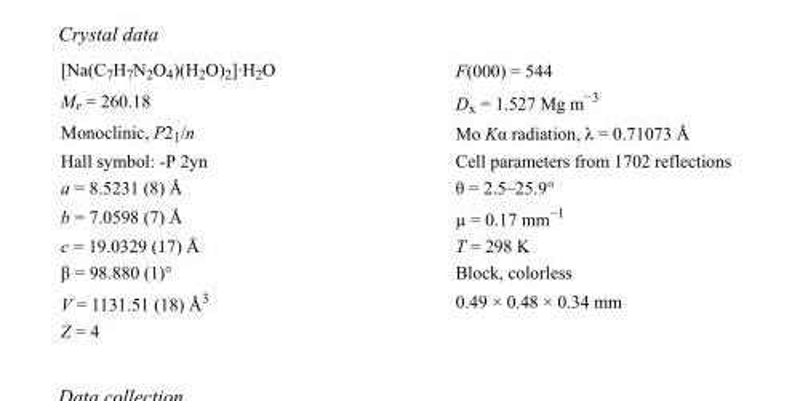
<table><tbody><tr><td>[Na(C<sub>7</sub>H<sub>7</sub>N<sub>2</sub>O<sub>4</sub>)(H<sub>2</sub>O)<sub>2</sub>]·H<sub>2</sub>O</td><td>F(000) = 544</td></tr><tr><td>M<sub>r</sub> = 260.18</td><td>D<sub>x</sub> = 1.527 Mg m<sup>−3</sup></td></tr><tr><td>Monoclinic, P2<sub>1</sub>/n</td><td>Mo Kα radiation, λ = 0.71073 Å</td></tr><tr><td>Hall symbol: -P 2yn</td><td>Cell parameters from 1702 reflections</td></tr><tr><td>a = 8.5231 (8) Å</td><td>θ = 2.5–25.9°</td></tr><tr><td>b = 7.0598 (7) Å</td><td>µ = 0.17 mm<sup>−1</sup></td></tr><tr><td>c = 19.0329 (17) Å</td><td>T = 298 K</td></tr><tr><td>β = 98.880 (1)°</td><td>Block, colorless</td></tr><tr><td>V = 1131.51 (18) Å<sup>3</sup></td><td>0.49 × 0.48 × 0.34 mm</td></tr><tr><td>Z = 4</td><td></td></tr></tbody></table>